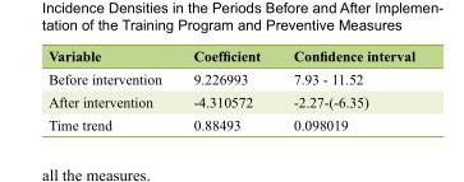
<table><thead><tr><td>Variable</td><td>Coefficient</td><td>Confidence interval</td></tr></thead><tbody><tr><td>Before intervention</td><td>9.226993</td><td>7.93 - 11.52</td></tr><tr><td>After intervention</td><td>-4.310572</td><td>-2.27-(-6.35)</td></tr><tr><td>Time trend</td><td>0.88493</td><td>0.098019</td></tr></tbody></table>